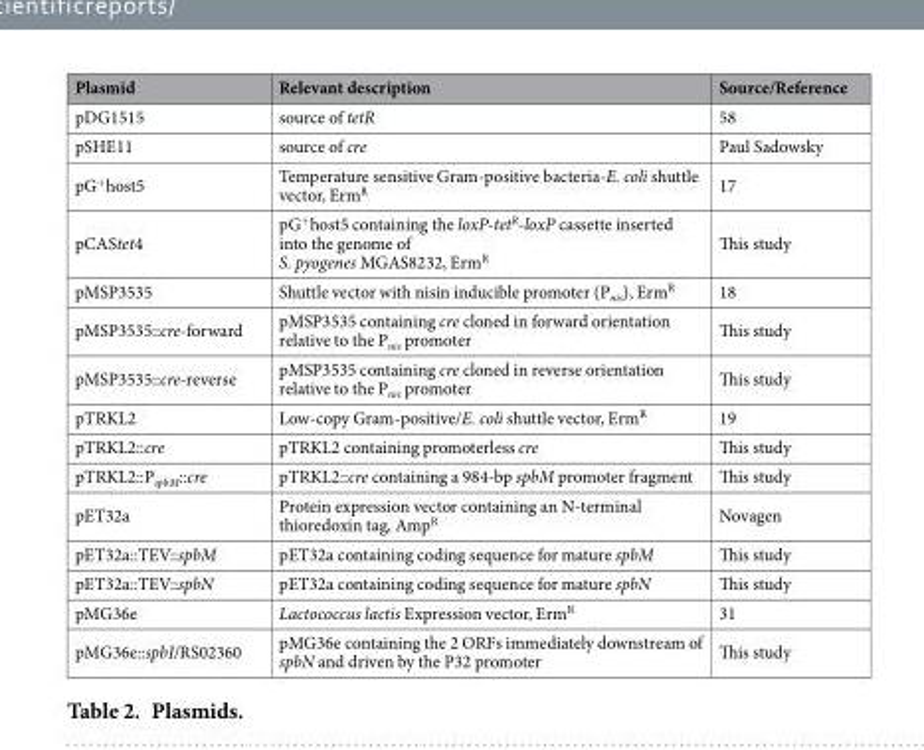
<table><thead><tr><td>Plasmid</td><td>Relevant description</td><td>Source/Reference</td></tr></thead><tbody><tr><td>pDG1515</td><td>source of tetR</td><td>58</td></tr><tr><td>pSHE11</td><td>source of cre</td><td>Paul Sadowsky</td></tr><tr><td>pG<sup>+</sup>host5</td><td>Temperature sensitive Gram-positive bacteria-E. coli shuttle vector, Erm<sup>R</sup></td><td>17</td></tr><tr><td>pCAStet4</td><td>pG<sup>+</sup>host5 containing the loxP-tet<sup>R</sup>-loxP cassette inserted into the genome of S. pyogenes MGAS8232, Erm<sup>R</sup></td><td>This study</td></tr><tr><td>pMSP3535</td><td>Shuttle vector with nisin inducible promoter (P<sub>nis</sub>), Erm<sup>R</sup></td><td>18</td></tr><tr><td>pMSP3535::cre-forward</td><td>pMSP3535 containing cre cloned in forward orientation relative to the P<sub>nis</sub> promoter</td><td>This study</td></tr><tr><td>pMSP3535::cre-reverse</td><td>pMSP3535 containing cre cloned in reverse orientation relative to the P<sub>nis</sub> promoter</td><td>This study</td></tr><tr><td>pTRKL2</td><td>Low-copy Gram-positive/E. coli shuttle vector, Erm<sup>R</sup></td><td>19</td></tr><tr><td>pTRKL2::cre</td><td>pTRKL2 containing promoterless cre</td><td>This study</td></tr><tr><td>pTRKL2::P<sub>spbM</sub>::cre</td><td>pTRKL2::cre containing a 984-bp spbM promoter fragment</td><td>This study</td></tr><tr><td>pET32a</td><td>Protein expression vector containing an N-terminal thioredoxin tag, Amp<sup>R</sup></td><td>Novagen</td></tr><tr><td>pET32a::TEV::spbM</td><td>pET32a containing coding sequence for mature spbM</td><td>This study</td></tr><tr><td>pET32a::TEV::spbN</td><td>pET32a containing coding sequence for mature spbN</td><td>This study</td></tr><tr><td>pMG36e</td><td>Lactococcus lactis Expression vector, Erm<sup>R</sup></td><td>31</td></tr><tr><td>pMG36e::spbI/RS02360</td><td>pMG36e containing the 2 ORFs immediately downstream of spbN and driven by the P32 promoter</td><td>This study</td></tr></tbody></table>